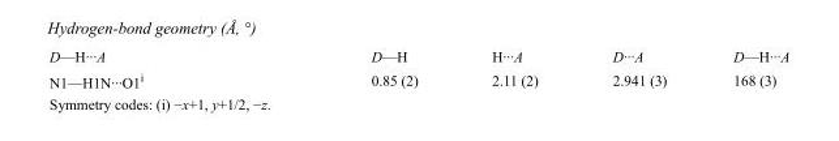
<table><tbody><tr><td>D—H···A</td><td>D—H</td><td>H···A</td><td>D···A</td><td>D—H···A</td></tr><tr><td>N1—H1N···O1<sup>i</sup></td><td>0.85 (2)</td><td>2.11 (2)</td><td>2.941 (3)</td><td>168 (3)</td></tr></tbody></table>